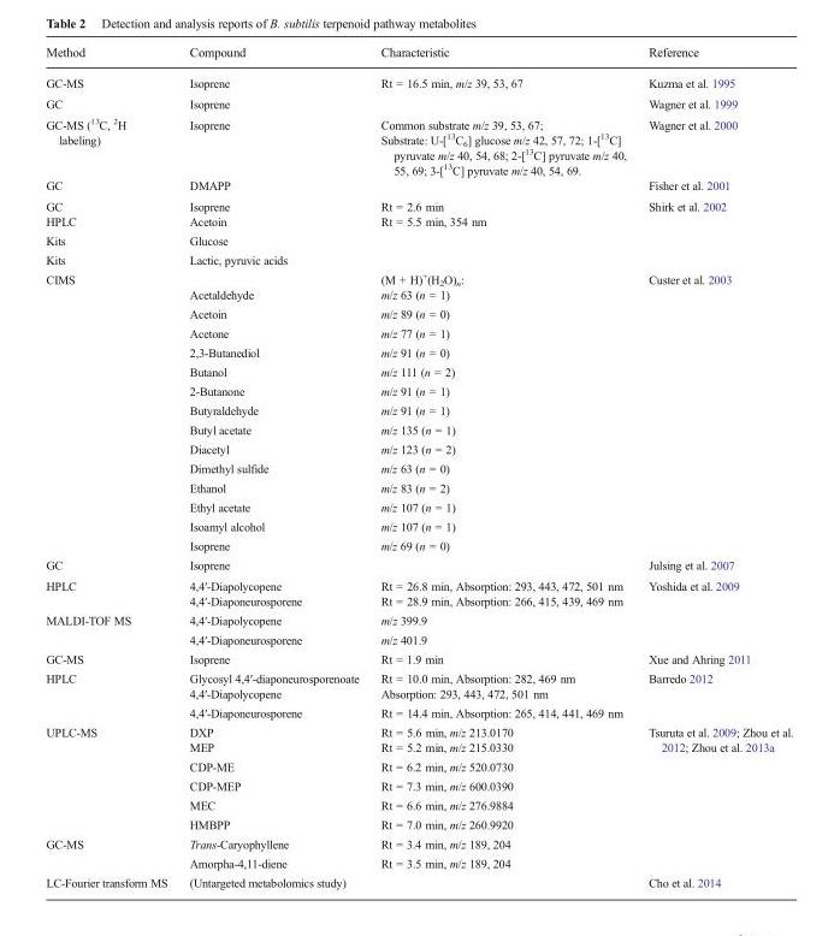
<table><thead><tr><td>Method</td><td>Compound</td><td>Characteristic</td><td>Reference</td></tr></thead><tbody><tr><td>GC-MS</td><td>Isoprene</td><td>Rt = 16.5 min, m/z 39, 53, 67</td><td>Kuzma et al. 1995</td></tr><tr><td>GC</td><td>Isoprene</td><td></td><td>Wagner et al. 1999</td></tr><tr><td>GC-MS (<sup>13</sup>C, <sup>2</sup>H labeling)</td><td>Isoprene</td><td>Common substrate m/z 39, 53, 67; Substrate: U-[<sup>13</sup>C<sub>6</sub>] glucose m/z 42, 57, 72; 1-[<sup>13</sup>C] pyruvate m/z 40, 54, 68; 2-[<sup>13</sup>C] pyruvate m/z 40, 55, 69; 3-[<sup>13</sup>C] pyruvate m/z 40, 54, 69.</td><td>Wagner et al. 2000</td></tr><tr><td>GC</td><td>DMAPP</td><td></td><td>Fisher et al. 2001</td></tr><tr><td>GC</td><td>Isoprene</td><td>Rt = 2.6 min</td><td rowspan="4">Shirk et al. 2002</td></tr><tr><td>HPLC</td><td>Acetoin</td><td>Rt = 5.5 min, 354 nm</td></tr><tr><td>Kits</td><td>Glucose</td><td></td></tr><tr><td>Kits</td><td>Lactic, pyruvic acids</td><td></td></tr><tr><td rowspan="15">CIMS</td><td></td><td>(M + H)<sup>+</sup>(H<sub>2</sub>O)<sub>n</sub>:</td><td rowspan="15">Custer et al. 2003</td></tr><tr><td>Acetaldehyde</td><td>m/z 63 (n = 1)</td></tr><tr><td>Acetoin</td><td>m/z 89 (n = 0)</td></tr><tr><td>Acetone</td><td>m/z 77 (n = 1)</td></tr><tr><td>2,3-Butanediol</td><td>m/z 91 (n = 0)</td></tr><tr><td>Butanol</td><td>m/z 111 (n = 2)</td></tr><tr><td>2-Butanone</td><td>m/z 91 (n = 1)</td></tr><tr><td>Butyraldehyde</td><td>m/z 91 (n = 1)</td></tr><tr><td>Butyl acetate</td><td>m/z 135 (n = 1)</td></tr><tr><td>Diacetyl</td><td>m/z 123 (n = 2)</td></tr><tr><td>Dimethyl sulfide</td><td>m/z 63 (n = 0)</td></tr><tr><td>Ethanol</td><td>m/z 83 (n = 2)</td></tr><tr><td>Ethyl acetate</td><td>m/z 107 (n = 1)</td></tr><tr><td>Isoamyl alcohol</td><td>m/z 107 (n = 1)</td></tr><tr><td>Isoprene</td><td>m/z 69 (n = 0)</td></tr><tr><td>GC</td><td>Isoprene</td><td></td><td>Julsing et al. 2007</td></tr><tr><td rowspan="2">HPLC</td><td>4,4′-Diapolycopene</td><td>Rt = 26.8 min, Absorption: 293, 443, 472, 501 nm</td><td rowspan="4">Yoshida et al. 2009</td></tr><tr><td>4,4′-Diaponeurosporene</td><td>Rt = 28.9 min, Absorption: 266, 415, 439, 469 nm</td></tr><tr><td rowspan="2">MALDI-TOF MS</td><td>4,4′-Diapolycopene</td><td>m/z 399.9</td></tr><tr><td>4,4′-Diaponeurosporene</td><td>m/z 401.9</td></tr><tr><td>GC-MS</td><td>Isoprene</td><td>Rt = 1.9 min</td><td>Xue and Ahring 2011</td></tr><tr><td rowspan="3">HPLC</td><td>Glycosyl 4,4′-diaponeurosporenoate</td><td>Rt = 10.0 min, Absorption: 282, 469 nm</td><td rowspan="3">Barredo 2012</td></tr><tr><td>4,4′-Diapolycopene</td><td>Absorption: 293, 443, 472, 501 nm</td></tr><tr><td>4,4′-Diaponeurosporene</td><td>Rt = 14.4 min, Absorption: 265, 414, 441, 469 nm</td></tr><tr><td rowspan="6">UPLC-MS</td><td>DXP</td><td>Rt = 5.6 min, m/z 213.0170</td><td rowspan="8">Tsuruta et al. 2009; Zhou et al. 2012; Zhou et al. 2013a</td></tr><tr><td>MEP</td><td>Rt = 5.2 min, m/z 215.0330</td></tr><tr><td>CDP-ME</td><td>Rt = 6.2 min, m/z 520.0730</td></tr><tr><td>CDP-MEP</td><td>Rt = 7.3 min, m/z 600.0390</td></tr><tr><td>MEC</td><td>Rt = 6.6 min, m/z 276.9884</td></tr><tr><td>HMBPP</td><td>Rt = 7.0 min, m/z 260.9920</td></tr><tr><td rowspan="2">GC-MS</td><td>Trans-Caryophyllene</td><td>Rt = 3.4 min, m/z 189, 204</td></tr><tr><td>Amorpha-4,11-diene</td><td>Rt = 3.5 min, m/z 189, 204</td></tr><tr><td>LC-Fourier transform MS</td><td colspan="2">(Untargeted metabolomics study)</td><td>Cho et al. 2014</td></tr></tbody></table>